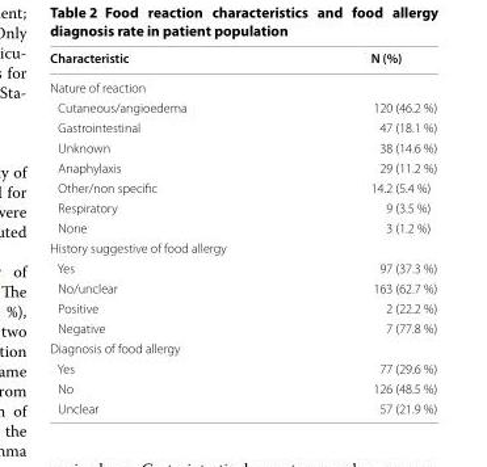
<table><thead><tr><td>Characteristic</td><td>N (%)</td></tr></thead><tbody><tr><td colspan="2">Nature of reaction</td></tr><tr><td>Cutaneous/angioedema</td><td>120 (46.2 %)</td></tr><tr><td>Gastrointestinal</td><td>47 (18.1 %)</td></tr><tr><td>Unknown</td><td>38 (14.6 %)</td></tr><tr><td>Anaphylaxis</td><td>29 (11.2 %)</td></tr><tr><td>Other/non specific</td><td>14.2 (5.4 %)</td></tr><tr><td>Respiratory</td><td>9 (3.5 %)</td></tr><tr><td>None</td><td>3 (1.2 %)</td></tr><tr><td colspan="2">History suggestive of food allergy</td></tr><tr><td>Yes</td><td>97 (37.3 %)</td></tr><tr><td>No/unclear</td><td>163 (62.7 %)</td></tr><tr><td>Positive</td><td>2 (22.2 %)</td></tr><tr><td>Negative</td><td>7 (77.8 %)</td></tr><tr><td colspan="2">Diagnosis of food allergy</td></tr><tr><td>Yes</td><td>77 (29.6 %)</td></tr><tr><td>No</td><td>126 (48.5 %)</td></tr><tr><td>Unclear</td><td>57 (21.9 %)</td></tr></tbody></table>